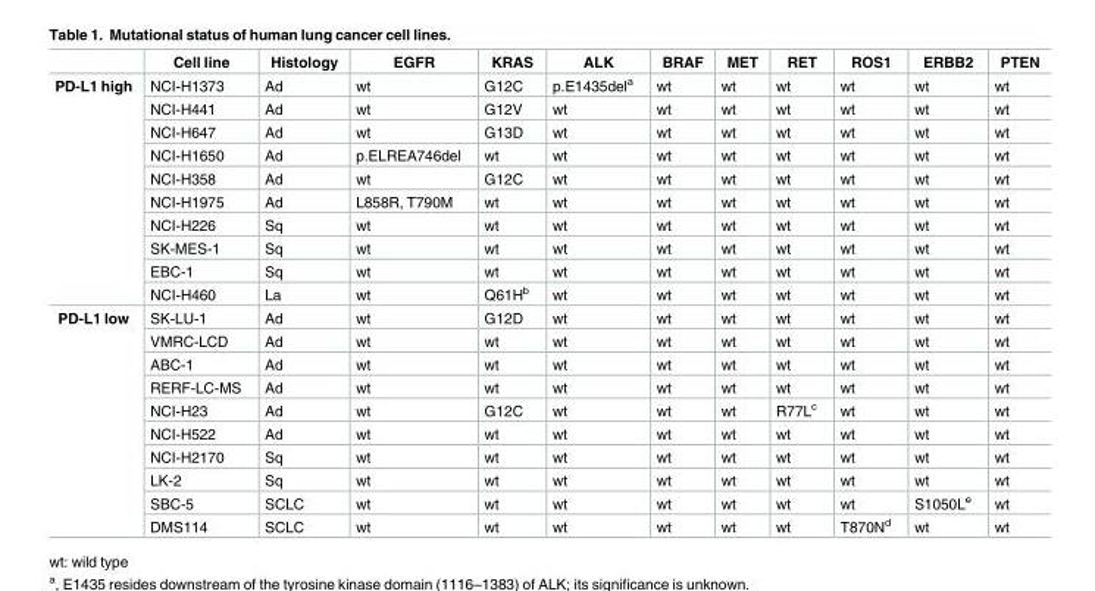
<table><thead><tr><td></td><td>Cell line</td><td>Histology</td><td>EGFR</td><td>KRAS</td><td>ALK</td><td>BRAF</td><td>MET</td><td>RET</td><td>ROS1</td><td>ERBB2</td><td>PTEN</td></tr></thead><tbody><tr><td rowspan="10">PD-L1 high</td><td>NCI-H1373</td><td>Ad</td><td>wt</td><td>G12C</td><td>p.E1435del<sup>a</sup></td><td>wt</td><td>wt</td><td>wt</td><td>wt</td><td>wt</td><td>wt</td></tr><tr><td>NCI-H441</td><td>Ad</td><td>wt</td><td>G12V</td><td>wt</td><td>wt</td><td>wt</td><td>wt</td><td>wt</td><td>wt</td><td>wt</td></tr><tr><td>NCI-H647</td><td>Ad</td><td>wt</td><td>G13D</td><td>wt</td><td>wt</td><td>wt</td><td>wt</td><td>wt</td><td>wt</td><td>wt</td></tr><tr><td>NCI-H1650</td><td>Ad</td><td>p.ELREA746del</td><td>wt</td><td>wt</td><td>wt</td><td>wt</td><td>wt</td><td>wt</td><td>wt</td><td>wt</td></tr><tr><td>NCI-H358</td><td>Ad</td><td>wt</td><td>G12C</td><td>wt</td><td>wt</td><td>wt</td><td>wt</td><td>wt</td><td>wt</td><td>wt</td></tr><tr><td>NCI-H1975</td><td>Ad</td><td>L858R, T790M</td><td>wt</td><td>wt</td><td>wt</td><td>wt</td><td>wt</td><td>wt</td><td>wt</td><td>wt</td></tr><tr><td>NCI-H226</td><td>Sq</td><td>wt</td><td>wt</td><td>wt</td><td>wt</td><td>wt</td><td>wt</td><td>wt</td><td>wt</td><td>wt</td></tr><tr><td>SK-MES-1</td><td>Sq</td><td>wt</td><td>wt</td><td>wt</td><td>wt</td><td>wt</td><td>wt</td><td>wt</td><td>wt</td><td>wt</td></tr><tr><td>EBC-1</td><td>Sq</td><td>wt</td><td>wt</td><td>wt</td><td>wt</td><td>wt</td><td>wt</td><td>wt</td><td>wt</td><td>wt</td></tr><tr><td>NCI-H460</td><td>La</td><td>wt</td><td>Q61H<sup>b</sup></td><td>wt</td><td>wt</td><td>wt</td><td>wt</td><td>wt</td><td>wt</td><td>wt</td></tr><tr><td rowspan="10">PD-L1 low</td><td>SK-LU-1</td><td>Ad</td><td>wt</td><td>G12D</td><td>wt</td><td>wt</td><td>wt</td><td>wt</td><td>wt</td><td>wt</td><td>wt</td></tr><tr><td>VMRC-LCD</td><td>Ad</td><td>wt</td><td>wt</td><td>wt</td><td>wt</td><td>wt</td><td>wt</td><td>wt</td><td>wt</td><td>wt</td></tr><tr><td>ABC-1</td><td>Ad</td><td>wt</td><td>wt</td><td>wt</td><td>wt</td><td>wt</td><td>wt</td><td>wt</td><td>wt</td><td>wt</td></tr><tr><td>RERF-LC-MS</td><td>Ad</td><td>wt</td><td>wt</td><td>wt</td><td>wt</td><td>wt</td><td>wt</td><td>wt</td><td>wt</td><td>wt</td></tr><tr><td>NCI-H23</td><td>Ad</td><td>wt</td><td>G12C</td><td>wt</td><td>wt</td><td>wt</td><td>R77L<sup>c</sup></td><td>wt</td><td>wt</td><td>wt</td></tr><tr><td>NCI-H522</td><td>Ad</td><td>wt</td><td>wt</td><td>wt</td><td>wt</td><td>wt</td><td>wt</td><td>wt</td><td>wt</td><td>wt</td></tr><tr><td>NCI-H2170</td><td>Sq</td><td>wt</td><td>wt</td><td>wt</td><td>wt</td><td>wt</td><td>wt</td><td>wt</td><td>wt</td><td>wt</td></tr><tr><td>LK-2</td><td>Sq</td><td>wt</td><td>wt</td><td>wt</td><td>wt</td><td>wt</td><td>wt</td><td>wt</td><td>wt</td><td>wt</td></tr><tr><td>SBC-5</td><td>SCLC</td><td>wt</td><td>wt</td><td>wt</td><td>wt</td><td>wt</td><td>wt</td><td>wt</td><td>S1050L<sup>e</sup></td><td>wt</td></tr><tr><td>DMS114</td><td>SCLC</td><td>wt</td><td>wt</td><td>wt</td><td>wt</td><td>wt</td><td>wt</td><td>T870N<sup>d</sup></td><td>wt</td><td>wt</td></tr></tbody></table>